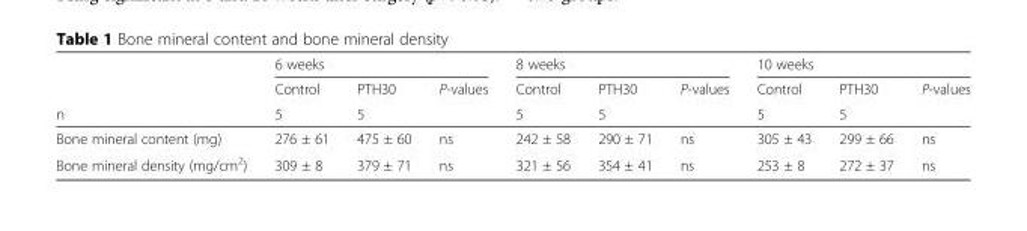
<table><thead><tr><td rowspan="3">n</td><td colspan="3">6 weeks</td><td colspan="3">8 weeks</td><td colspan="3">10 weeks</td></tr><tr><td rowspan="2">Control 5</td><td rowspan="2">PTH30 5</td><td rowspan="2">P-values</td><td rowspan="2">Control 5</td><td rowspan="2">PTH30 5</td><td rowspan="2">P-values</td><td rowspan="2">Control 5</td><td rowspan="2">PTH30 5</td><td rowspan="2">P-values</td></tr><tr></tr></thead><tbody><tr><td>Bone mineral content (mg)</td><td>276 ± 61</td><td>475 ± 60</td><td>ns</td><td>242 ± 58</td><td>290 ± 71</td><td>ns</td><td>305 ± 43</td><td>299 ± 66</td><td>ns</td></tr><tr><td>Bone mineral density (mg/cm<sup>2</sup>)</td><td>309 ± 8</td><td>379 ± 71</td><td>ns</td><td>321 ± 56</td><td>354 ± 41</td><td>ns</td><td>253 ± 8</td><td>272 ± 37</td><td>ns</td></tr></tbody></table>